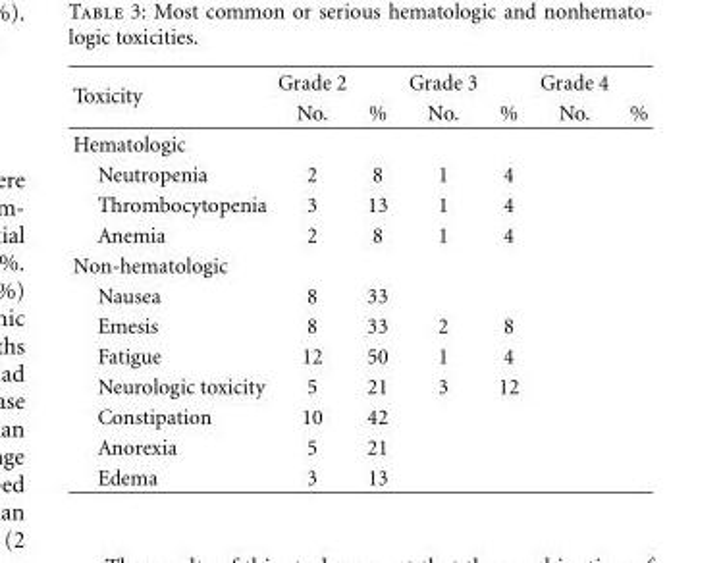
<table><thead><tr><td rowspan="2">Toxicity</td><td rowspan="2">Grade 2 No.</td><td rowspan="2">%</td><td rowspan="2">Grade 3 No.</td><td rowspan="2">%</td><td rowspan="2">Grade 4 No.</td><td rowspan="2">%</td></tr><tr></tr></thead><tbody><tr><td colspan="7">Hematologic</td></tr><tr><td>Neutropenia</td><td>2</td><td>8</td><td>1</td><td>4</td><td></td><td></td></tr><tr><td>Thrombocytopenia</td><td>3</td><td>13</td><td>1</td><td>4</td><td></td><td></td></tr><tr><td>Anemia</td><td>2</td><td>8</td><td>1</td><td>4</td><td></td><td></td></tr><tr><td colspan="7">Non-hematologic</td></tr><tr><td>Nausea</td><td>8</td><td>33</td><td></td><td></td><td></td><td></td></tr><tr><td>Emesis</td><td>8</td><td>33</td><td>2</td><td>8</td><td></td><td></td></tr><tr><td>Fatigue</td><td>12</td><td>50</td><td>1</td><td>4</td><td></td><td></td></tr><tr><td>Neurologic toxicity</td><td>5</td><td>21</td><td>3</td><td>12</td><td></td><td></td></tr><tr><td>Constipation</td><td>10</td><td>42</td><td></td><td></td><td></td><td></td></tr><tr><td>Anorexia</td><td>5</td><td>21</td><td></td><td></td><td></td><td></td></tr><tr><td>Edema</td><td>3</td><td>13</td><td></td><td></td><td></td><td></td></tr></tbody></table>